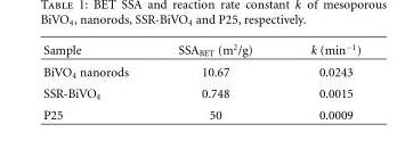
<table><thead><tr><td>Sample</td><td>SSA<sub>BET</sub> (m<sup>2</sup>/g)</td><td>k (min<sup>−1</sup>)</td></tr></thead><tbody><tr><td>BiVO<sub>4</sub> nanorods</td><td>10.67</td><td>0.0243</td></tr><tr><td>SSR-BiVO<sub>4</sub></td><td>0.748</td><td>0.0015</td></tr><tr><td>P25</td><td>50</td><td>0.0009</td></tr></tbody></table>